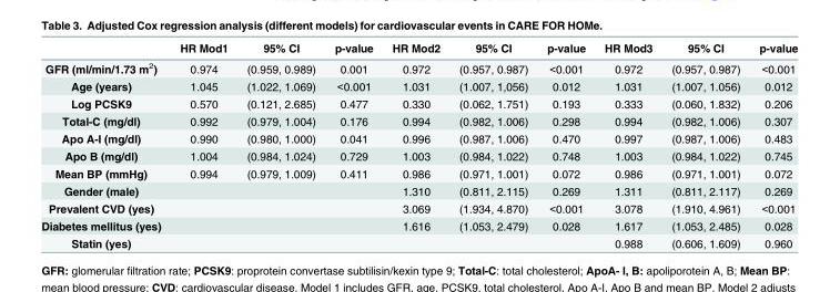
<table><thead><tr><td></td><td>HR Mod1</td><td>95% CI</td><td>p-value</td><td>HR Mod2</td><td>95% CI</td><td>p-value</td><td>HR Mod3</td><td>95% CI</td><td>p-value</td></tr></thead><tbody><tr><td>GFR (ml/min/1.73 m<sup>2</sup>)</td><td>0.974</td><td>(0.959, 0.989)</td><td>0.001</td><td>0.972</td><td>(0.957, 0.987)</td><td>&lt;0.001</td><td>0.972</td><td>(0.957, 0.987)</td><td>&lt;0.001</td></tr><tr><td>Age (years)</td><td>1.045</td><td>(1.022, 1.069)</td><td>&lt;0.001</td><td>1.031</td><td>(1.007, 1,056)</td><td>0.012</td><td>1.031</td><td>(1.007, 1.056)</td><td>0.012</td></tr><tr><td>Log PCSK9</td><td>0.570</td><td>(0.121, 2.685)</td><td>0.477</td><td>0.330</td><td>(0.062, 1.751)</td><td>0.193</td><td>0.333</td><td>(0.060, 1.832)</td><td>0.206</td></tr><tr><td>Total-C (mg/dl)</td><td>0.992</td><td>(0.979, 1.004)</td><td>0.176</td><td>0.994</td><td>(0.982, 1.006)</td><td>0.298</td><td>0.994</td><td>(0.982, 1.006)</td><td>0.307</td></tr><tr><td>Apo A-I (mg/dl)</td><td>0.990</td><td>(0.980, 1.000)</td><td>0.041</td><td>0.996</td><td>(0.987, 1.006)</td><td>0.470</td><td>0.997</td><td>(0.987, 1.006)</td><td>0.483</td></tr><tr><td>Apo B (mg/dl)</td><td>1.004</td><td>(0.984, 1.024)</td><td>0.729</td><td>1.003</td><td>(0.984, 1.022)</td><td>0.748</td><td>1.003</td><td>(0.984, 1.022)</td><td>0.745</td></tr><tr><td>Mean BP (mmHg)</td><td>0.994</td><td>(0.979, 1.009)</td><td>0.411</td><td>0.986</td><td>(0.971, 1.001)</td><td>0.072</td><td>0.986</td><td>(0.971, 1.001)</td><td>0.072</td></tr><tr><td>Gender (male)</td><td></td><td></td><td></td><td>1.310</td><td>(0.811, 2.115)</td><td>0.269</td><td>1.311</td><td>(0.811, 2.117)</td><td>0.269</td></tr><tr><td>Prevalent CVD (yes)</td><td></td><td></td><td></td><td>3.069</td><td>(1.934, 4.870)</td><td>&lt;0.001</td><td>3.078</td><td>(1.910, 4.961)</td><td>&lt;0.001</td></tr><tr><td>Diabetes mellitus (yes)</td><td></td><td></td><td></td><td>1.616</td><td>(1.053, 2.479)</td><td>0.028</td><td>1.617</td><td>(1.053, 2.485)</td><td>0.028</td></tr><tr><td>Statin (yes)</td><td></td><td></td><td></td><td></td><td></td><td></td><td>0.988</td><td>(0.606, 1.609)</td><td>0.960</td></tr></tbody></table>